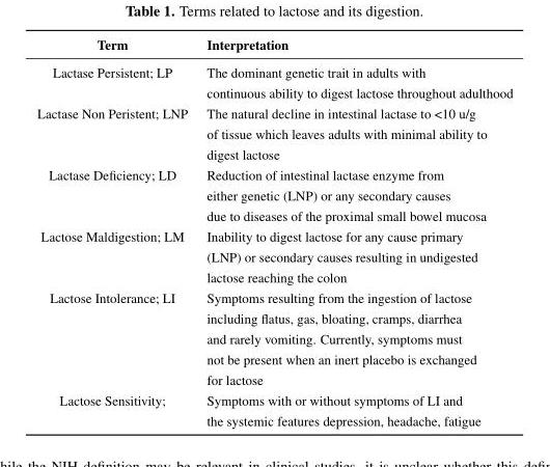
<table><thead><tr><td>Term</td><td>Interpretation</td></tr></thead><tbody><tr><td rowspan="2">Lactase Persistent; LP</td><td>The dominant genetic trait in adults with</td></tr><tr><td>continuous ability to digest lactose throughout adulthood</td></tr><tr><td rowspan="3">Lactase Non Peristent; LNP</td><td>The natural decline in intestinal lactase to &lt;10 u/g</td></tr><tr><td>of tissue which leaves adults with minimal ability to</td></tr><tr><td>digest lactose</td></tr><tr><td rowspan="3">Lactase Deficiency; LD</td><td>Reduction of intestinal lactase enzyme from</td></tr><tr><td>either genetic (LNP) or any secondary causes</td></tr><tr><td>due to diseases of the proximal small bowel mucosa</td></tr><tr><td rowspan="3">Lactose Maldigestion; LM</td><td>Inability to digest lactose for any cause primary</td></tr><tr><td>(LNP) or secondary causes resulting in undigested</td></tr><tr><td>lactose reaching the colon</td></tr><tr><td rowspan="5">Lactose Intolerance; LI</td><td>Symptoms resulting from the ingestion of lactose</td></tr><tr><td>including flatus, gas, bloating, cramps, diarrhea</td></tr><tr><td>and rarely vomiting. Currently, symptoms must</td></tr><tr><td>not be present when an inert placebo is exchanged</td></tr><tr><td>for lactose</td></tr><tr><td rowspan="2">Lactose Sensitivity;</td><td>Symptoms with or without symptoms of LI and</td></tr><tr><td>the systemic features depression, headache, fatigue</td></tr></tbody></table>